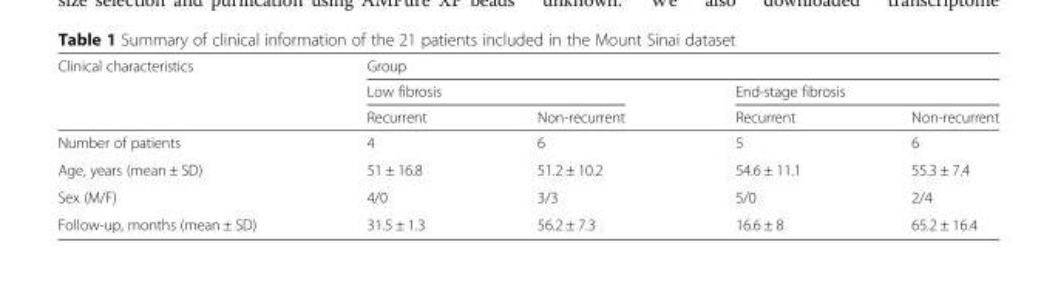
<table><thead><tr><td rowspan="3">Clinical characteristics</td><td colspan="4">Group</td></tr><tr><td colspan="2">Low fibrosis</td><td colspan="2">End-stage fibrosis</td></tr><tr><td>Recurrent</td><td>Non-recurrent</td><td>Recurrent</td><td>Non-recurrent</td></tr></thead><tbody><tr><td>Number of patients</td><td>4</td><td>6</td><td>5</td><td>6</td></tr><tr><td>Age, years (mean ± SD)</td><td>51 ± 16.8</td><td>51.2 ± 10.2</td><td>54.6 ± 11.1</td><td>55.3 ± 7.4</td></tr><tr><td>Sex (M/F)</td><td>4/0</td><td>3/3</td><td>5/0</td><td>2/4</td></tr><tr><td>Follow-up, months (mean ± SD)</td><td>31.5 ± 1.3</td><td>56.2 ± 7.3</td><td>16.6 ± 8</td><td>65.2 ± 16.4</td></tr></tbody></table>